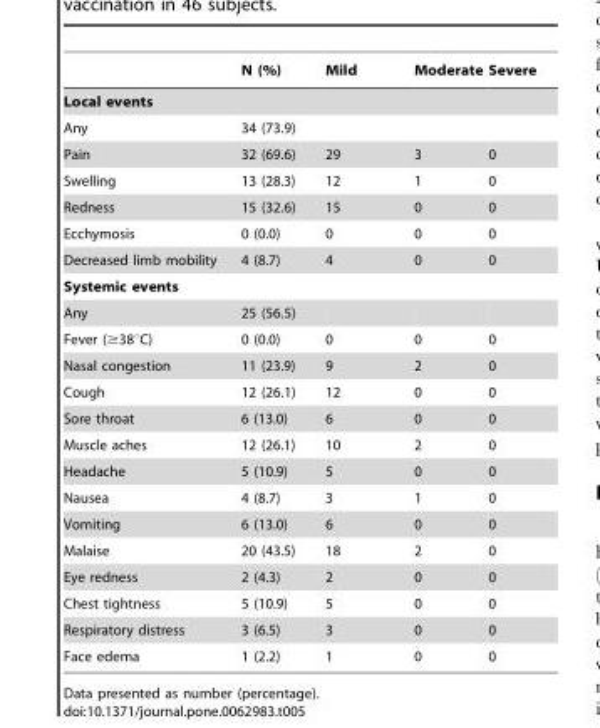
<table><thead><tr><td></td><td>N (%)</td><td>Mild</td><td>Moderate</td><td>Severe</td></tr></thead><tbody><tr><td colspan="5">Local events</td></tr><tr><td>Any</td><td>34 (73.9)</td><td></td><td></td><td></td></tr><tr><td>Pain</td><td>32 (69.6)</td><td>29</td><td>3</td><td>0</td></tr><tr><td>Swelling</td><td>13 (28.3)</td><td>12</td><td>1</td><td>0</td></tr><tr><td>Redness</td><td>15 (32.6)</td><td>15</td><td>0</td><td>0</td></tr><tr><td>Ecchymosis</td><td>0 (0.0)</td><td>0</td><td>0</td><td>0</td></tr><tr><td>Decreased limb mobility</td><td>4 (8.7)</td><td>4</td><td>0</td><td>0</td></tr><tr><td colspan="5">Systemic events</td></tr><tr><td>Any</td><td>25 (56.5)</td><td></td><td></td><td></td></tr><tr><td>Fever (≥38°C)</td><td>0 (0.0)</td><td>0</td><td>0</td><td>0</td></tr><tr><td>Nasal congestion</td><td>11 (23.9)</td><td>9</td><td>2</td><td>0</td></tr><tr><td>Cough</td><td>12 (26.1)</td><td>12</td><td>0</td><td>0</td></tr><tr><td>Sore throat</td><td>6 (13.0)</td><td>6</td><td>0</td><td>0</td></tr><tr><td>Muscle aches</td><td>12 (26.1)</td><td>10</td><td>2</td><td>0</td></tr><tr><td>Headache</td><td>5 (10.9)</td><td>5</td><td>0</td><td>0</td></tr><tr><td>Nausea</td><td>4 (8.7)</td><td>3</td><td>1</td><td>0</td></tr><tr><td>Vomiting</td><td>6 (13.0)</td><td>6</td><td>0</td><td>0</td></tr><tr><td>Malaise</td><td>20 (43.5)</td><td>18</td><td>2</td><td>0</td></tr><tr><td>Eye redness</td><td>2 (4.3)</td><td>2</td><td>0</td><td>0</td></tr><tr><td>Chest tightness</td><td>5 (10.9)</td><td>5</td><td>0</td><td>0</td></tr><tr><td>Respiratory distress</td><td>3 (6.5)</td><td>3</td><td>0</td><td>0</td></tr><tr><td>Face edema</td><td>1 (2.2)</td><td>1</td><td>0</td><td>0</td></tr></tbody></table>